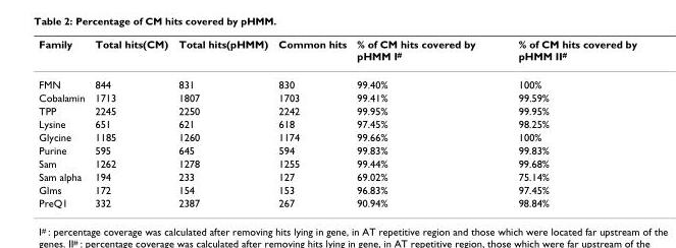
<table><thead><tr><td>Family</td><td>Total hits(CM)</td><td>Total hits(pHMM)</td><td>Common hits</td><td>% of CM hits covered by pHMM I<sup>#</sup></td><td>% of CM hits covered by pHMM II<sup>#</sup></td></tr></thead><tbody><tr><td>FMN</td><td>844</td><td>831</td><td>830</td><td>99.40%</td><td>100%</td></tr><tr><td>Cobalamin</td><td>1713</td><td>1807</td><td>1703</td><td>99.41%</td><td>99.59%</td></tr><tr><td>TPP</td><td>2245</td><td>2250</td><td>2242</td><td>99.95%</td><td>99.95%</td></tr><tr><td>Lysine</td><td>651</td><td>621</td><td>618</td><td>97.45%</td><td>98.25%</td></tr><tr><td>Glycine</td><td>1185</td><td>1260</td><td>1174</td><td>99.66%</td><td>100%</td></tr><tr><td>Purine</td><td>595</td><td>645</td><td>594</td><td>99.83%</td><td>99.83%</td></tr><tr><td>Sam</td><td>1262</td><td>1278</td><td>1255</td><td>99.44%</td><td>99.68%</td></tr><tr><td>Sam alpha</td><td>194</td><td>233</td><td>127</td><td>69.02%</td><td>75.14%</td></tr><tr><td>Glms</td><td>172</td><td>154</td><td>153</td><td>96.83%</td><td>97.45%</td></tr><tr><td>PreQ1</td><td>332</td><td>2387</td><td>267</td><td>90.94%</td><td>98.84%</td></tr></tbody></table>